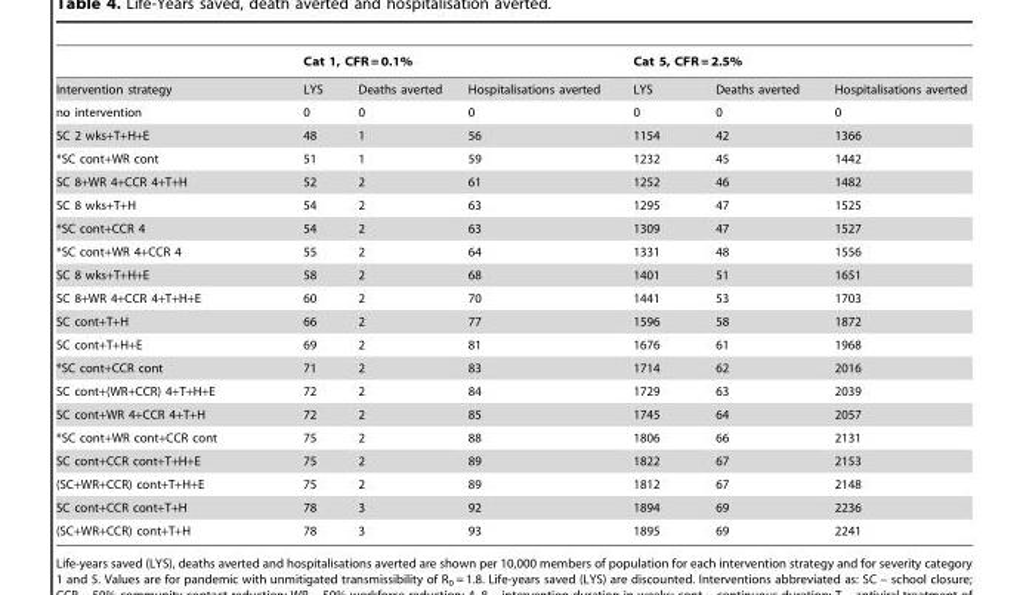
<table><thead><tr><td rowspan="2">Intervention strategy</td><td colspan="3">Cat 1, CFR = 0.1%</td><td colspan="3">Cat 5, CFR = 2.5%</td></tr><tr><td>LYS</td><td>Deaths averted</td><td>Hospitalisations averted</td><td>LYS</td><td>Deaths averted</td><td>Hospitalisations averted</td></tr></thead><tbody><tr><td>no intervention</td><td>0</td><td>0</td><td>0</td><td>0</td><td>0</td><td>0</td></tr><tr><td>SC 2 wks+T+H+E</td><td>48</td><td>1</td><td>56</td><td>1154</td><td>42</td><td>1366</td></tr><tr><td>*SC cont+WR cont</td><td>51</td><td>1</td><td>59</td><td>1232</td><td>45</td><td>1442</td></tr><tr><td>SC 8+WR 4+CCR 4+T+H</td><td>52</td><td>2</td><td>61</td><td>1252</td><td>46</td><td>1482</td></tr><tr><td>SC 8 wks+T+H</td><td>54</td><td>2</td><td>63</td><td>1295</td><td>47</td><td>1525</td></tr><tr><td>*SC cont+CCR 4</td><td>54</td><td>2</td><td>63</td><td>1309</td><td>47</td><td>1527</td></tr><tr><td>*SC cont+WR 4+CCR 4</td><td>55</td><td>2</td><td>64</td><td>1331</td><td>48</td><td>1556</td></tr><tr><td>SC 8 wks+T+H+E</td><td>58</td><td>2</td><td>68</td><td>1401</td><td>51</td><td>1651</td></tr><tr><td>SC 8+WR 4+CCR 4+T+H+E</td><td>60</td><td>2</td><td>70</td><td>1441</td><td>53</td><td>1703</td></tr><tr><td>SC cont+T+H</td><td>66</td><td>2</td><td>77</td><td>1596</td><td>58</td><td>1872</td></tr><tr><td>SC cont+T+H+E</td><td>69</td><td>2</td><td>81</td><td>1676</td><td>61</td><td>1968</td></tr><tr><td>*SC cont+CCR cont</td><td>71</td><td>2</td><td>83</td><td>1714</td><td>62</td><td>2016</td></tr><tr><td>SC cont+(WR+CCR) 4+T+H+E</td><td>72</td><td>2</td><td>84</td><td>1729</td><td>63</td><td>2039</td></tr><tr><td>SC cont+WR 4+CCR 4+T+H</td><td>72</td><td>2</td><td>85</td><td>1745</td><td>64</td><td>2057</td></tr><tr><td>*SC cont+WR cont+CCR cont</td><td>75</td><td>2</td><td>88</td><td>1806</td><td>66</td><td>2131</td></tr><tr><td>SC cont+CCR cont+T+H+E</td><td>75</td><td>2</td><td>89</td><td>1822</td><td>67</td><td>2153</td></tr><tr><td>(SC+WR+CCR) cont+T+H+E</td><td>75</td><td>2</td><td>89</td><td>1812</td><td>67</td><td>2148</td></tr><tr><td>SC cont+CCR cont+T+H</td><td>78</td><td>3</td><td>92</td><td>1894</td><td>69</td><td>2236</td></tr><tr><td>(SC+WR+CCR) cont+T+H</td><td>78</td><td>3</td><td>93</td><td>1895</td><td>69</td><td>2241</td></tr></tbody></table>